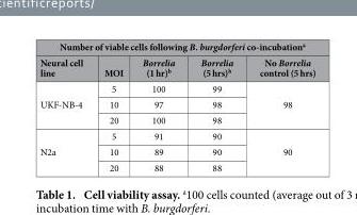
<table><thead><tr><td colspan="5">Number of viable cells following B. burgdorferi co-incubation<sup>a</sup></td></tr><tr><td>Neural cell line</td><td>MOI</td><td>Borrelia (1 hr)<sup>b</sup></td><td>Borrelia (5 hrs)<sup>b</sup></td><td>No Borrelia control (5 hrs)</td></tr></thead><tbody><tr><td rowspan="3">UKF-NB-4</td><td>5</td><td>100</td><td>99</td><td rowspan="3">98</td></tr><tr><td>10</td><td>97</td><td>98</td></tr><tr><td>20</td><td>100</td><td>98</td></tr><tr><td rowspan="3">N2a</td><td>5</td><td>91</td><td>90</td><td rowspan="3">90</td></tr><tr><td>10</td><td>89</td><td>90</td></tr><tr><td>20</td><td>88</td><td>88</td></tr></tbody></table>